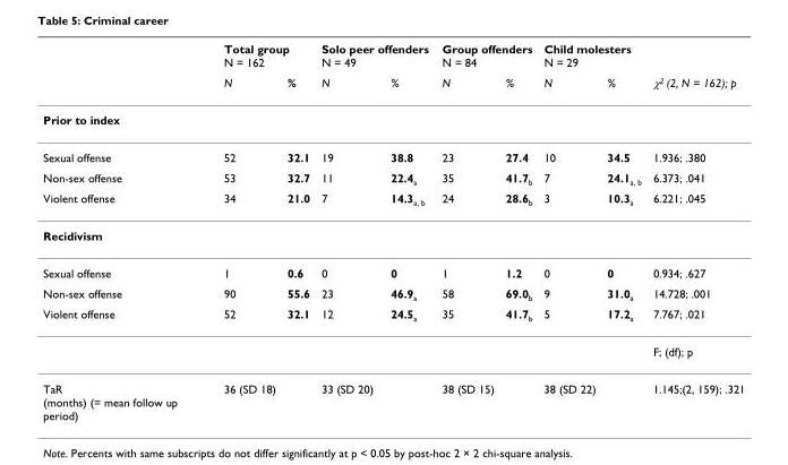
<table><thead><tr><td rowspan="2"></td><td colspan="2">Total group N = 162</td><td colspan="2">Solo peer offenders N = 49</td><td colspan="2">Group offenders N = 84</td><td colspan="2">Child molesters N = 29</td><td rowspan="2">χ<sup>2</sup> (2, N = 162); p</td></tr><tr><td>N</td><td>%</td><td>N</td><td>%</td><td>N</td><td>%</td><td>N</td><td>%</td></tr></thead><tbody><tr><td colspan="10">Prior to index</td></tr><tr><td>Sexual offense</td><td>52</td><td>32.1</td><td>19</td><td>38.8</td><td>23</td><td>27.4</td><td>10</td><td>34.5</td><td>1.936; .380</td></tr><tr><td>Non-sex offense</td><td>53</td><td>32.7</td><td>11</td><td>22.4<sub>a</sub></td><td>35</td><td>41.7<sub>b</sub></td><td>7</td><td>24.1<sub>a, b</sub></td><td>6.373; .041</td></tr><tr><td>Violent offense</td><td>34</td><td>21.0</td><td>7</td><td>14.3<sub>a, b</sub></td><td>24</td><td>28.6<sub>b</sub></td><td>3</td><td>10.3<sub>a</sub></td><td>6.221; .045</td></tr><tr><td colspan="10">Recidivism</td></tr><tr><td>Sexual offense</td><td>1</td><td>0.6</td><td>0</td><td>0</td><td>1</td><td>1.2</td><td>0</td><td>0</td><td>0.934; .627</td></tr><tr><td>Non-sex offense</td><td>90</td><td>55.6</td><td>23</td><td>46.9<sub>a</sub></td><td>58</td><td>69.0<sub>b</sub></td><td>9</td><td>31.0<sub>a</sub></td><td>14.728; .001</td></tr><tr><td rowspan="2">Violent offense</td><td>52</td><td>32.1</td><td>12</td><td>24.5<sub>a</sub></td><td>35</td><td>41.7<sub>b</sub></td><td>5</td><td>17.2<sub>a</sub></td><td>7.767; .021</td></tr><tr><td></td><td></td><td></td><td></td><td></td><td></td><td></td><td></td><td>F; (df); p</td></tr><tr><td>TaR (months) (= mean follow up period)</td><td>36 (SD 18)</td><td></td><td>33 (SD 20)</td><td></td><td>38 (SD 15)</td><td></td><td>38 (SD 22)</td><td></td><td>1.145;(2, 159); .321</td></tr></tbody></table>